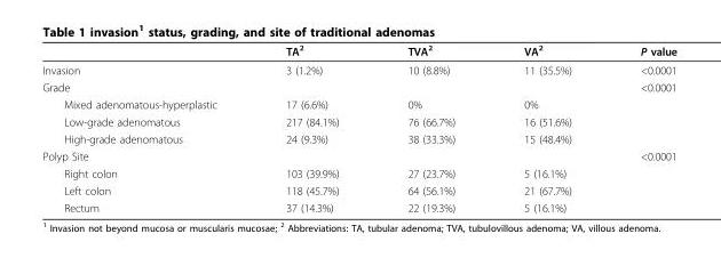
<table><thead><tr><td></td><td>TA<sup>2</sup></td><td>TVA<sup>2</sup></td><td>VA<sup>2</sup></td><td>P value</td></tr></thead><tbody><tr><td>Invasion</td><td>3 (1.2%)</td><td>10 (8.8%)</td><td>11 (35.5%)</td><td>&lt;0.0001</td></tr><tr><td>Grade</td><td></td><td></td><td></td><td>&lt;0.0001</td></tr><tr><td>Mixed adenomatous-hyperplastic</td><td>17 (6.6%)</td><td>0%</td><td>0%</td><td></td></tr><tr><td>Low-grade adenomatous</td><td>217 (84.1%)</td><td>76 (66.7%)</td><td>16 (51.6%)</td><td></td></tr><tr><td>High-grade adenomatous</td><td>24 (9.3%)</td><td>38 (33.3%)</td><td>15 (48.4%)</td><td></td></tr><tr><td>Polyp Site</td><td></td><td></td><td></td><td>&lt;0.0001</td></tr><tr><td>Right colon</td><td>103 (39.9%)</td><td>27 (23.7%)</td><td>5 (16.1%)</td><td></td></tr><tr><td>Left colon</td><td>118 (45.7%)</td><td>64 (56.1%)</td><td>21 (67.7%)</td><td></td></tr><tr><td>Rectum</td><td>37 (14.3%)</td><td>22 (19.3%)</td><td>5 (16.1%)</td><td></td></tr></tbody></table>